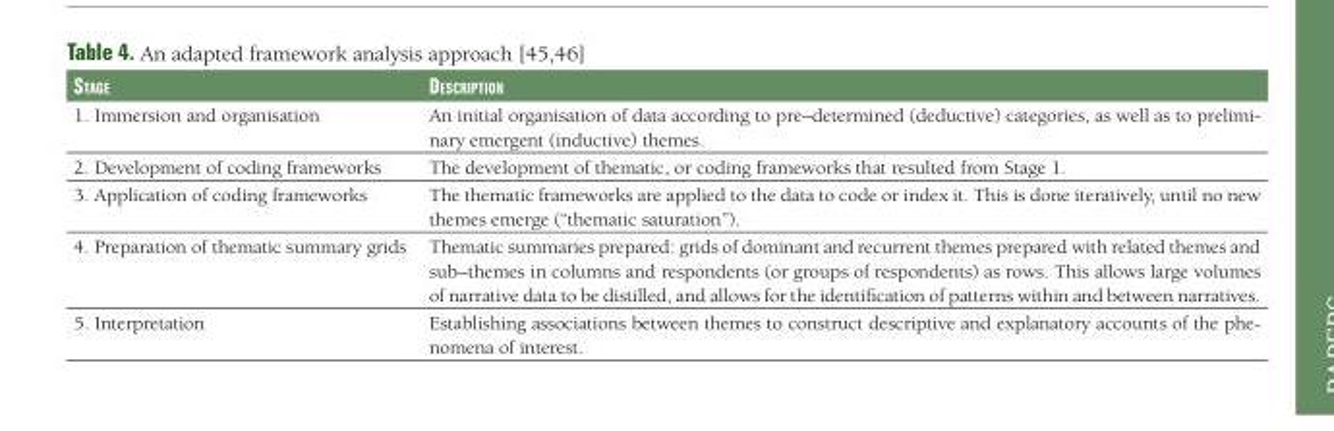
<table><thead><tr><td>stage</td><td>Description</td></tr></thead><tbody><tr><td>1. Immersion and organisation</td><td>An initial organisation of data according to pre–determined (deductive) categories, as well as to prelimi- nary emergent (inductive) themes.</td></tr><tr><td>2. Development of coding frameworks</td><td>The development of thematic, or coding frameworks that resulted from Stage 1.</td></tr><tr><td>3. Application of coding frameworks</td><td>The thematic frameworks are applied to the data to code or index it. This is done iteratively, until no new themes emerge (“thematic saturation”).</td></tr><tr><td>4. Preparation of thematic summary grids</td><td>Thematic summaries prepared: grids of dominant and recurrent themes prepared with related themes and sub–themes in columns and respondents (or groups of respondents) as rows. This allows large volumes of narrative data to be distilled, and allows for the identification of patterns within and between narratives.</td></tr><tr><td>5. Interpretation</td><td>Establishing associations between themes to construct descriptive and explanatory accounts of the phe- nomena of interest.</td></tr></tbody></table>